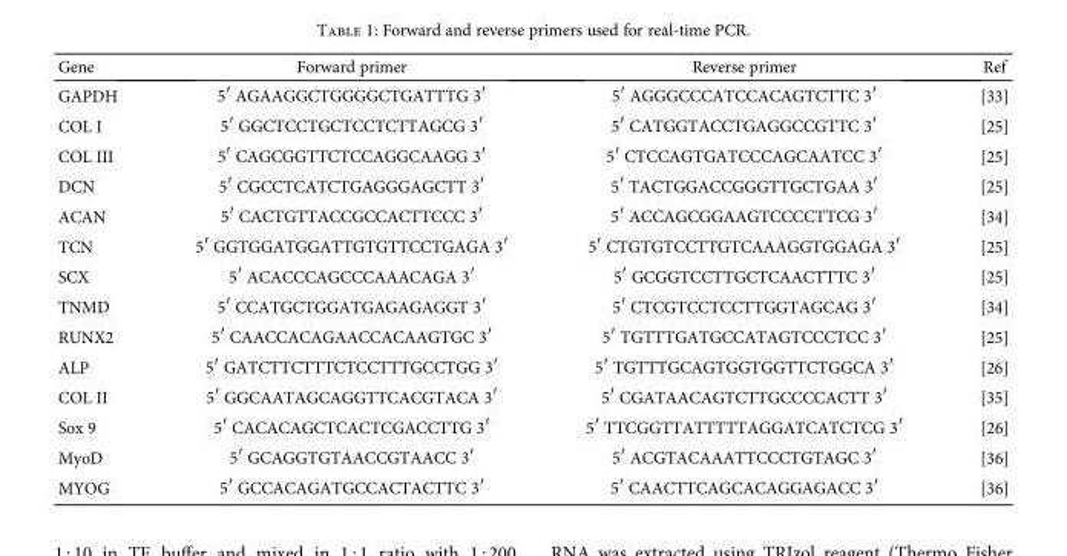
<table><thead><tr><td>Gene</td><td>Forward primer</td><td>Reverse primer</td><td>Ref</td></tr></thead><tbody><tr><td>GAPDH</td><td>5′ AGAAGGCTGGGGCTGATTTG 3′</td><td>5′ AGGGCCCATCCACAGTCTTC 3′</td><td>[33]</td></tr><tr><td>COL I</td><td>5′ GGCTCCTGCTCCTCTTAGCG 3′</td><td>5′ CATGGTACCTGAGGCCGTTC 3′</td><td>[25]</td></tr><tr><td>COL III</td><td>5′ CAGCGGTTCTCCAGGCAAGG 3′</td><td>5′ CTCCAGTGATCCCAGCAATCC 3′</td><td>[25]</td></tr><tr><td>DCN</td><td>5′ CGCCTCATCTGAGGGAGCTT 3′</td><td>5′ TACTGGACCGGGTTGCTGAA 3′</td><td>[25]</td></tr><tr><td>ACAN</td><td>5′ CACTGTTACCGCCACTTCCC 3′</td><td>5′ ACCAGCGGAAGTCCCCTTCG 3′</td><td>[34]</td></tr><tr><td>TCN</td><td>5′ GGTGGATGGATTGTGTTCCTGAGA 3′</td><td>5′ CTGTGTCCTTGTCAAAGGTGGAGA 3′</td><td>[25]</td></tr><tr><td>SCX</td><td>5′ ACACCCAGCCCAAACAGA 3′</td><td>5′ GCGGTCCTTGCTCAACTTTC 3′</td><td>[25]</td></tr><tr><td>TNMD</td><td>5′ CCATGCTGGATGAGAGAGGT 3′</td><td>5′ CTCGTCCTCCTTGGTAGCAG 3′</td><td>[34]</td></tr><tr><td>RUNX2</td><td>5′ CAACCACAGAACCACAAGTGC 3′</td><td>5′ TGTTTGATGCCATAGTCCCTCC 3′</td><td>[25]</td></tr><tr><td>ALP</td><td>5′ GATCTTCTTTCTCCTTTGCCTGG 3′</td><td>5′ TGTTTGCAGTGGTGGTTCTGGCA 3′</td><td>[26]</td></tr><tr><td>COL II</td><td>5′ GGCAATAGCAGGTTCACGTACA 3′</td><td>5′ CGATAACAGTCTTGCCCCACTT 3′</td><td>[35]</td></tr><tr><td>Sox 9</td><td>5′ CACACAGCTCACTCGACCTTG 3′</td><td>5′ TTCGGTTATTTTTAGGATCATCTCG 3′</td><td>[26]</td></tr><tr><td>MyoD</td><td>5′ GCAGGTGTAACCGTAACC 3′</td><td>5′ ACGTACAAATTCCCTGTAGC 3′</td><td>[36]</td></tr><tr><td>MYOG</td><td>5′ GCCACAGATGCCACTACTTC 3′</td><td>5′ CAACTTCAGCACAGGAGACC 3′</td><td>[36]</td></tr></tbody></table>